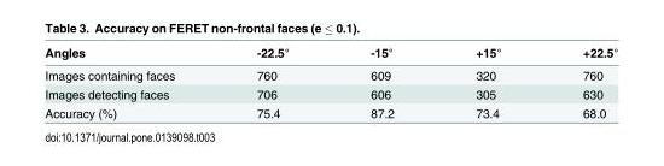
<table><thead><tr><td>Angles</td><td>-22.5°</td><td>-15°</td><td>+15°</td><td>+22.5°</td></tr></thead><tbody><tr><td>Images containing faces</td><td>760</td><td>609</td><td>320</td><td>760</td></tr><tr><td>Images detecting faces</td><td>706</td><td>606</td><td>305</td><td>630</td></tr><tr><td>Accuracy (%)</td><td>75.4</td><td>87.2</td><td>73.4</td><td>68.0</td></tr></tbody></table>